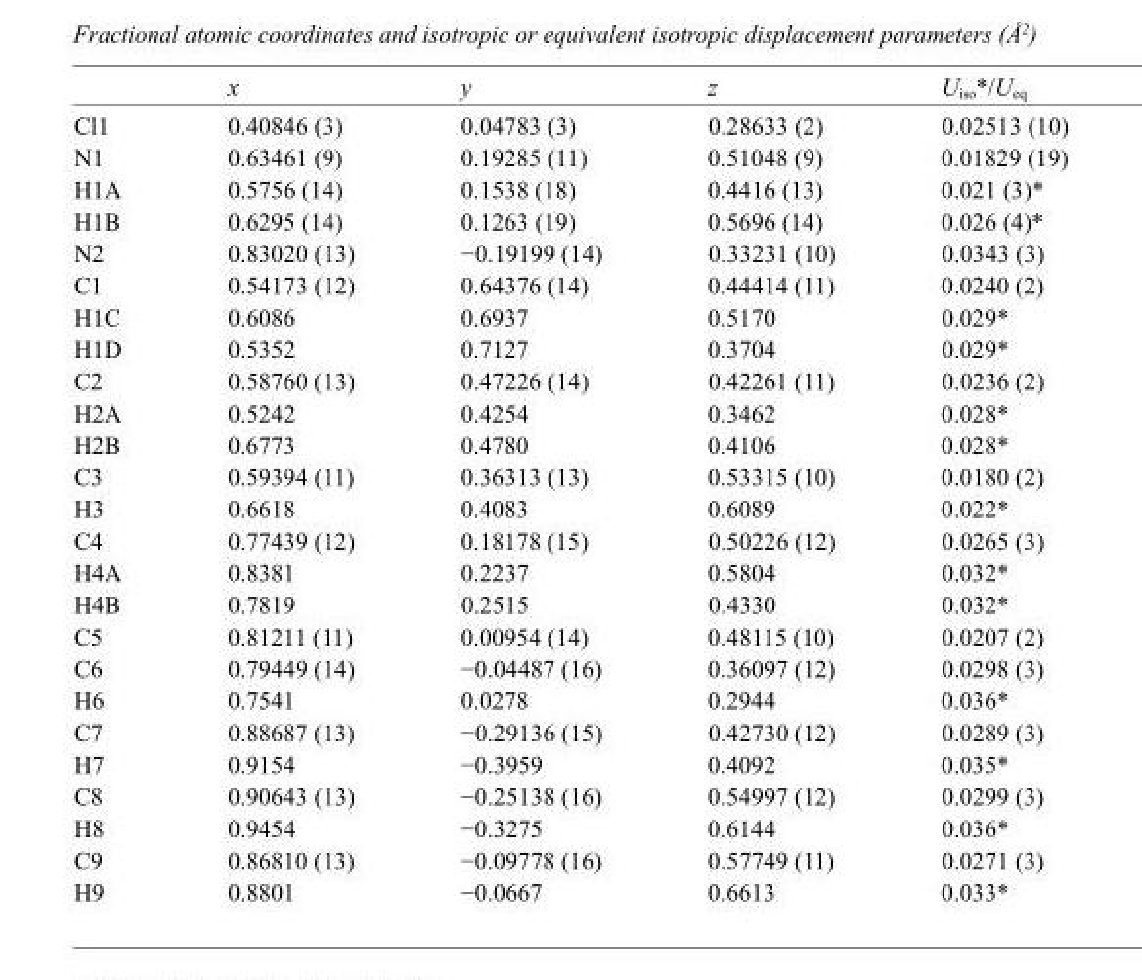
<table><thead><tr><td></td><td>x</td><td>y</td><td>z</td><td>U<sub>iso</sub>*/U<sub>eq</sub></td></tr></thead><tbody><tr><td>Cl1</td><td>0.40846 (3)</td><td>0.04783 (3)</td><td>0.28633 (2)</td><td>0.02513 (10)</td></tr><tr><td>N1</td><td>0.63461 (9)</td><td>0.19285 (11)</td><td>0.51048 (9)</td><td>0.01829 (19)</td></tr><tr><td>H1A</td><td>0.5756 (14)</td><td>0.1538 (18)</td><td>0.4416 (13)</td><td>0.021 (3)*</td></tr><tr><td>H1B</td><td>0.6295 (14)</td><td>0.1263 (19)</td><td>0.5696 (14)</td><td>0.026 (4)*</td></tr><tr><td>N2</td><td>0.83020 (13)</td><td>−0.19199 (14)</td><td>0.33231 (10)</td><td>0.0343 (3)</td></tr><tr><td>C1</td><td>0.54173 (12)</td><td>0.64376 (14)</td><td>0.44414 (11)</td><td>0.0240 (2)</td></tr><tr><td>H1C</td><td>0.6086</td><td>0.6937</td><td>0.5170</td><td>0.029*</td></tr><tr><td>H1D</td><td>0.5352</td><td>0.7127</td><td>0.3704</td><td>0.029*</td></tr><tr><td>C2</td><td>0.58760 (13)</td><td>0.47226 (14)</td><td>0.42261 (11)</td><td>0.0236 (2)</td></tr><tr><td>H2A</td><td>0.5242</td><td>0.4254</td><td>0.3462</td><td>0.028*</td></tr><tr><td>H2B</td><td>0.6773</td><td>0.4780</td><td>0.4106</td><td>0.028*</td></tr><tr><td>C3</td><td>0.59394 (11)</td><td>0.36313 (13)</td><td>0.53315 (10)</td><td>0.0180 (2)</td></tr><tr><td>H3</td><td>0.6618</td><td>0.4083</td><td>0.6089</td><td>0.022*</td></tr><tr><td>C4</td><td>0.77439 (12)</td><td>0.18178 (15)</td><td>0.50226 (12)</td><td>0.0265 (3)</td></tr><tr><td>H4A</td><td>0.8381</td><td>0.2237</td><td>0.5804</td><td>0.032*</td></tr><tr><td>H4B</td><td>0.7819</td><td>0.2515</td><td>0.4330</td><td>0.032*</td></tr><tr><td>C5</td><td>0.81211 (11)</td><td>0.00954 (14)</td><td>0.48115 (10)</td><td>0.0207 (2)</td></tr><tr><td>C6</td><td>0.79449 (14)</td><td>−0.04487 (16)</td><td>0.36097 (12)</td><td>0.0298 (3)</td></tr><tr><td>H6</td><td>0.7541</td><td>0.0278</td><td>0.2944</td><td>0.036*</td></tr><tr><td>C7</td><td>0.88687 (13)</td><td>−0.29136 (15)</td><td>0.42730 (12)</td><td>0.0289 (3)</td></tr><tr><td>H7</td><td>0.9154</td><td>−0.3959</td><td>0.4092</td><td>0.035*</td></tr><tr><td>C8</td><td>0.90643 (13)</td><td>−0.25138 (16)</td><td>0.54997 (12)</td><td>0.0299 (3)</td></tr><tr><td>H8</td><td>0.9454</td><td>−0.3275</td><td>0.6144</td><td>0.036*</td></tr><tr><td>C9</td><td>0.86810 (13)</td><td>−0.09778 (16)</td><td>0.57749 (11)</td><td>0.0271 (3)</td></tr><tr><td>H9</td><td>0.8801</td><td>−0.0667</td><td>0.6613</td><td>0.033*</td></tr></tbody></table>